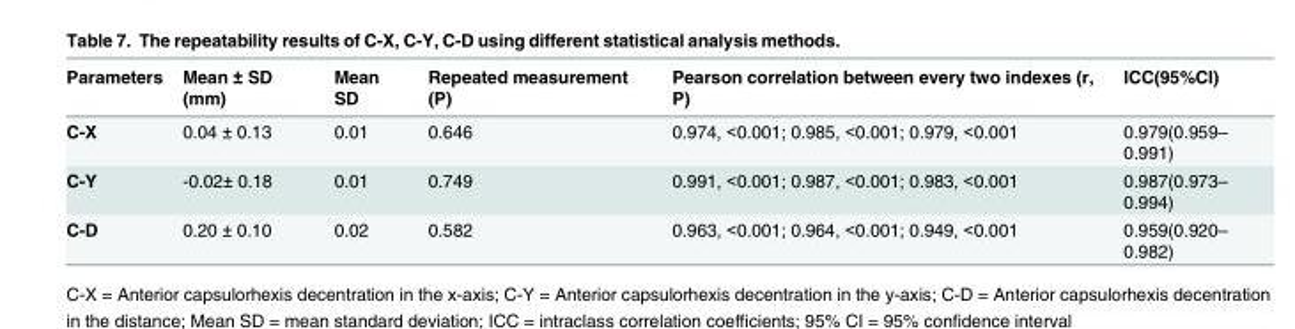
<table><thead><tr><td>Parameters</td><td>Mean ± SD (mm)</td><td>Mean SD</td><td>Repeated measurement (P)</td><td>Pearson correlation between every two indexes (r, P)</td><td>ICC(95%CI)</td></tr></thead><tbody><tr><td>C-X</td><td>0.04 ± 0.13</td><td>0.01</td><td>0.646</td><td>0.974, &lt;0.001; 0.985, &lt;0.001; 0.979, &lt;0.001</td><td>0.979(0.959– 0.991)</td></tr><tr><td>C-Y</td><td>-0.02± 0.18</td><td>0.01</td><td>0.749</td><td>0.991, &lt;0.001; 0.987, &lt;0.001; 0.983, &lt;0.001</td><td>0.987(0.973– 0.994)</td></tr><tr><td>C-D</td><td>0.20 ± 0.10</td><td>0.02</td><td>0.582</td><td>0.963, &lt;0.001; 0.964, &lt;0.001; 0.949, &lt;0.001</td><td>0.959(0.920– 0.982)</td></tr></tbody></table>